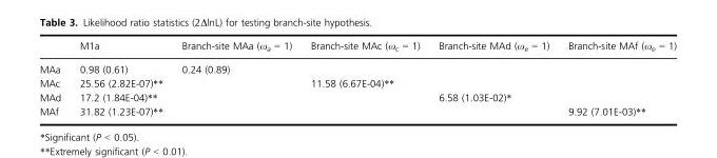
<table><thead><tr><td></td><td>M1a</td><td>Branch-site MAa (ω<sub>a</sub> = 1)</td><td>Branch-site MAc (ω<sub>c</sub> = 1)</td><td>Branch-site MAd (ω<sub>e</sub> = 1)</td><td>Branch-site MAf (ω<sub>e</sub> = 1)</td></tr></thead><tbody><tr><td>MAa</td><td>0.98 (0.61)</td><td>0.24 (0.89)</td><td></td><td></td><td></td></tr><tr><td>MAc</td><td>25.56 (2.82E-07)**</td><td></td><td>11.58 (6.67E-04)**</td><td></td><td></td></tr><tr><td>MAd</td><td>17.2 (1.84E-04)**</td><td></td><td></td><td>6.58 (1.03E-02)*</td><td></td></tr><tr><td>MAf</td><td>31.82 (1.23E-07)**</td><td></td><td></td><td></td><td>9.92 (7.01E-03)**</td></tr></tbody></table>